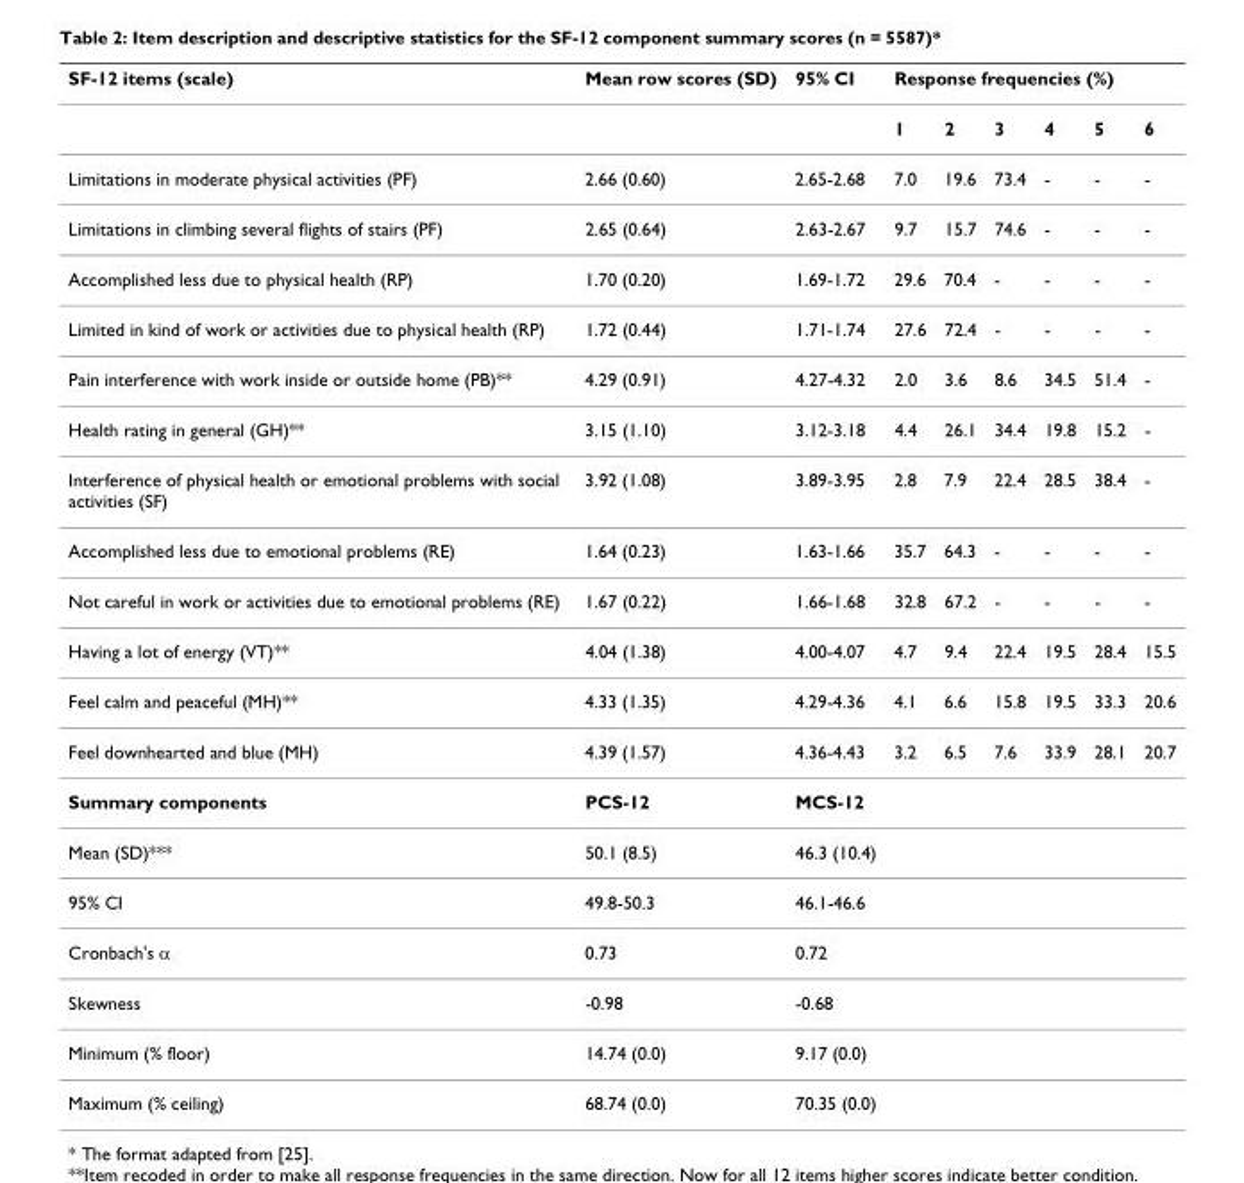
<table><thead><tr><td rowspan="2">SF-12 items (scale)</td><td rowspan="2">Mean row scores (SD)</td><td rowspan="2">95% CI</td><td colspan="6">Response frequencies (%)</td></tr><tr><td>1</td><td>2</td><td>3</td><td>4</td><td>5</td><td>6</td></tr></thead><tbody><tr><td>Limitations in moderate physical activities (PF)</td><td>2.66 (0.60)</td><td>2.65-2.68</td><td>7.0</td><td>19.6</td><td>73.4</td><td>-</td><td>-</td><td>-</td></tr><tr><td>Limitations in climbing several flights of stairs (PF)</td><td>2.65 (0.64)</td><td>2.63-2.67</td><td>9.7</td><td>15.7</td><td>74.6</td><td>-</td><td>-</td><td>-</td></tr><tr><td>Accomplished less due to physical health (RP)</td><td>1.70 (0.20)</td><td>1.69-1.72</td><td>29.6</td><td>70.4</td><td>-</td><td>-</td><td>-</td><td>-</td></tr><tr><td>Limited in kind of work or activities due to physical health (RP)</td><td>1.72 (0.44)</td><td>1.71-1.74</td><td>27.6</td><td>72.4</td><td>-</td><td>-</td><td>-</td><td>-</td></tr><tr><td>Pain interference with work inside or outside home (PB)**</td><td>4.29 (0.91)</td><td>4.27-4.32</td><td>2.0</td><td>3.6</td><td>8.6</td><td>34.5</td><td>51.4</td><td>-</td></tr><tr><td>Health rating in general (GH)**</td><td>3.15 (1.10)</td><td>3.12-3.18</td><td>4.4</td><td>26.1</td><td>34.4</td><td>19.8</td><td>15.2</td><td>-</td></tr><tr><td>Interference of physical health or emotional problems with social activities (SF)</td><td>3.92 (1.08)</td><td>3.89-3.95</td><td>2.8</td><td>7.9</td><td>22.4</td><td>28.5</td><td>38.4</td><td>-</td></tr><tr><td>Accomplished less due to emotional problems (RE)</td><td>1.64 (0.23)</td><td>1.63-1.66</td><td>35.7</td><td>64.3</td><td>-</td><td>-</td><td>-</td><td>-</td></tr><tr><td>Not careful in work or activities due to emotional problems (RE)</td><td>1.67 (0.22)</td><td>1.66-1.68</td><td>32.8</td><td>67.2</td><td>-</td><td>-</td><td>-</td><td>-</td></tr><tr><td>Having a lot of energy (VT)**</td><td>4.04 (1.38)</td><td>4.00-4.07</td><td>4.7</td><td>9.4</td><td>22.4</td><td>19.5</td><td>28.4</td><td>15.5</td></tr><tr><td>Feel calm and peaceful (MH)**</td><td>4.33 (1.35)</td><td>4.29-4.36</td><td>4.1</td><td>6.6</td><td>15.8</td><td>19.5</td><td>33.3</td><td>20.6</td></tr><tr><td>Feel downhearted and blue (MH)</td><td>4.39 (1.57)</td><td>4.36-4.43</td><td>3.2</td><td>6.5</td><td>7.6</td><td>33.9</td><td>28.1</td><td>20.7</td></tr><tr><td>Summary components</td><td>PCS-12</td><td>MCS-12</td><td></td><td></td><td></td><td></td><td></td><td></td></tr><tr><td>Mean (SD)***</td><td>50.1 (8.5)</td><td>46.3 (10.4)</td><td></td><td></td><td></td><td></td><td></td><td></td></tr><tr><td>95% CI</td><td>49.8-50.3</td><td>46.1-46.6</td><td></td><td></td><td></td><td></td><td></td><td></td></tr><tr><td>Cronbach&#x27;s α</td><td>0.73</td><td>0.72</td><td></td><td></td><td></td><td></td><td></td><td></td></tr><tr><td>Skewness</td><td>-0.98</td><td>-0.68</td><td></td><td></td><td></td><td></td><td></td><td></td></tr><tr><td>Minimum (% floor)</td><td>14.74 (0.0)</td><td>9.17 (0.0)</td><td></td><td></td><td></td><td></td><td></td><td></td></tr><tr><td>Maximum (% ceiling)</td><td>68.74 (0.0)</td><td>70.35 (0.0)</td><td></td><td></td><td></td><td></td><td></td><td></td></tr></tbody></table>